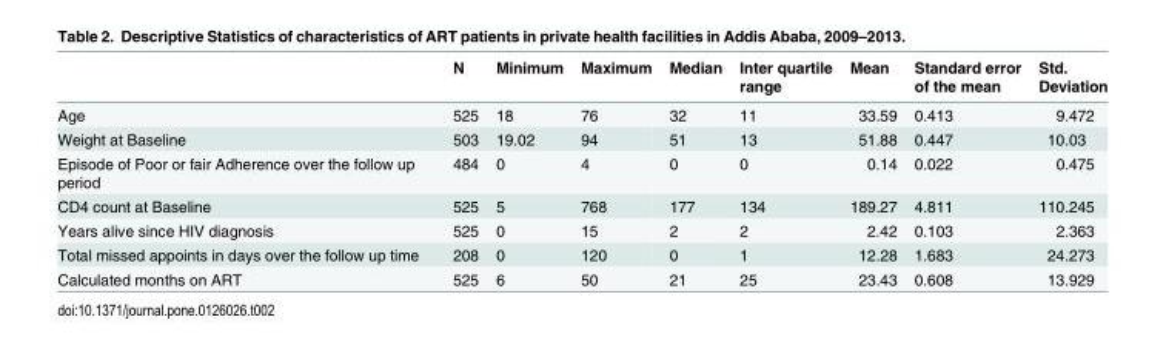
<table><thead><tr><td></td><td>N</td><td>Minimum</td><td>Maximum</td><td>Median</td><td>Inter quartile range</td><td>Mean</td><td>Standard error of the mean</td><td>Std. Deviation</td></tr></thead><tbody><tr><td>Age</td><td>525</td><td>18</td><td>76</td><td>32</td><td>11</td><td>33.59</td><td>0.413</td><td>9.472</td></tr><tr><td>Weight at Baseline</td><td>503</td><td>19.02</td><td>94</td><td>51</td><td>13</td><td>51.88</td><td>0.447</td><td>10.03</td></tr><tr><td>Episode of Poor or fair Adherence over the follow up period</td><td>484</td><td>0</td><td>4</td><td>0</td><td>0</td><td>0.14</td><td>0.022</td><td>0.475</td></tr><tr><td>CD4 count at Baseline</td><td>525</td><td>5</td><td>768</td><td>177</td><td>134</td><td>189.27</td><td>4.811</td><td>110.245</td></tr><tr><td>Years alive since HIV diagnosis</td><td>525</td><td>0</td><td>15</td><td>2</td><td>2</td><td>2.42</td><td>0.103</td><td>2.363</td></tr><tr><td>Total missed appoints in days over the follow up time</td><td>208</td><td>0</td><td>120</td><td>0</td><td>1</td><td>12.28</td><td>1.683</td><td>24.273</td></tr><tr><td>Calculated months on ART</td><td>525</td><td>6</td><td>50</td><td>21</td><td>25</td><td>23.43</td><td>0.608</td><td>13.929</td></tr></tbody></table>